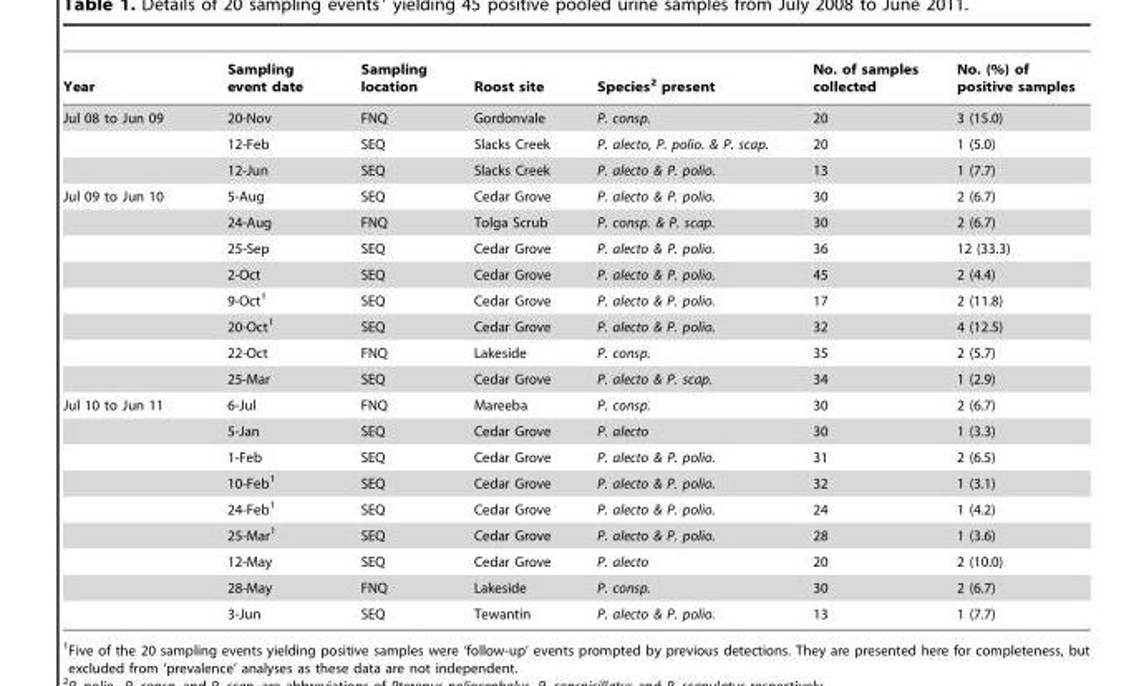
<table><thead><tr><td>Year</td><td>Sampling event date</td><td>Sampling location</td><td>Roost site</td><td>Species<sup>2</sup> present</td><td>No. of samples collected</td><td>No. (%) of positive samples</td></tr></thead><tbody><tr><td rowspan="3">Jul 08 to Jun 09</td><td>20-Nov</td><td>FNQ</td><td>Gordonvale</td><td>P. consp.</td><td>20</td><td>3 (15.0)</td></tr><tr><td>12-Feb</td><td>SEQ</td><td>Slacks Creek</td><td>P. alecto, P. polio. &amp; P. scap.</td><td>20</td><td>1 (5.0)</td></tr><tr><td>12-Jun</td><td>SEQ</td><td>Slacks Creek</td><td>P. alecto &amp; P. polio.</td><td>13</td><td>1 (7.7)</td></tr><tr><td rowspan="8">Jul 09 to Jun 10</td><td>5-Aug</td><td>SEQ</td><td>Cedar Grove</td><td>P. alecto &amp; P. polio.</td><td>30</td><td>2 (6.7)</td></tr><tr><td>24-Aug</td><td>FNQ</td><td>Tolga Scrub</td><td>P. consp. &amp; P. scap.</td><td>30</td><td>2 (6.7)</td></tr><tr><td>25-Sep</td><td>SEQ</td><td>Cedar Grove</td><td>P. alecto &amp; P. polio.</td><td>36</td><td>12 (33.3)</td></tr><tr><td>2-Oct</td><td>SEQ</td><td>Cedar Grove</td><td>P. alecto &amp; P. polio.</td><td>45</td><td>2 (4.4)</td></tr><tr><td>9-Oct<sup>1</sup></td><td>SEQ</td><td>Cedar Grove</td><td>P. alecto &amp; P. polio.</td><td>17</td><td>2 (11.8)</td></tr><tr><td>20-Oct<sup>1</sup></td><td>SEQ</td><td>Cedar Grove</td><td>P. alecto &amp; P. polio.</td><td>32</td><td>4 (12.5)</td></tr><tr><td>22-Oct</td><td>FNQ</td><td>Lakeside</td><td>P. consp.</td><td>35</td><td>2 (5.7)</td></tr><tr><td>25-Mar</td><td>SEQ</td><td>Cedar Grove</td><td>P. alecto &amp; P. scap.</td><td>34</td><td>1 (2.9)</td></tr><tr><td rowspan="9">Jul 10 to Jun 11</td><td>6-Jul</td><td>FNQ</td><td>Mareeba</td><td>P. consp.</td><td>30</td><td>2 (6.7)</td></tr><tr><td>5-Jan</td><td>SEQ</td><td>Cedar Grove</td><td>P. alecto</td><td>30</td><td>1 (3.3)</td></tr><tr><td>1-Feb</td><td>SEQ</td><td>Cedar Grove</td><td>P. alecto &amp; P. polio.</td><td>31</td><td>2 (6.5)</td></tr><tr><td>10-Feb<sup>1</sup></td><td>SEQ</td><td>Cedar Grove</td><td>P. alecto &amp; P. polio.</td><td>32</td><td>1 (3.1)</td></tr><tr><td>24-Feb<sup>1</sup></td><td>SEQ</td><td>Cedar Grove</td><td>P. alecto &amp; P. polio.</td><td>24</td><td>1 (4.2)</td></tr><tr><td>25-Mar<sup>1</sup></td><td>SEQ</td><td>Cedar Grove</td><td>P. alecto &amp; P. polio.</td><td>28</td><td>1 (3.6)</td></tr><tr><td>12-May</td><td>SEQ</td><td>Cedar Grove</td><td>P. alecto</td><td>20</td><td>2 (10.0)</td></tr><tr><td>28-May</td><td>FNQ</td><td>Lakeside</td><td>P. consp.</td><td>30</td><td>2 (6.7)</td></tr><tr><td>3-Jun</td><td>SEQ</td><td>Tewantin</td><td>P. alecto &amp; P. polio.</td><td>13</td><td>1 (7.7)</td></tr></tbody></table>